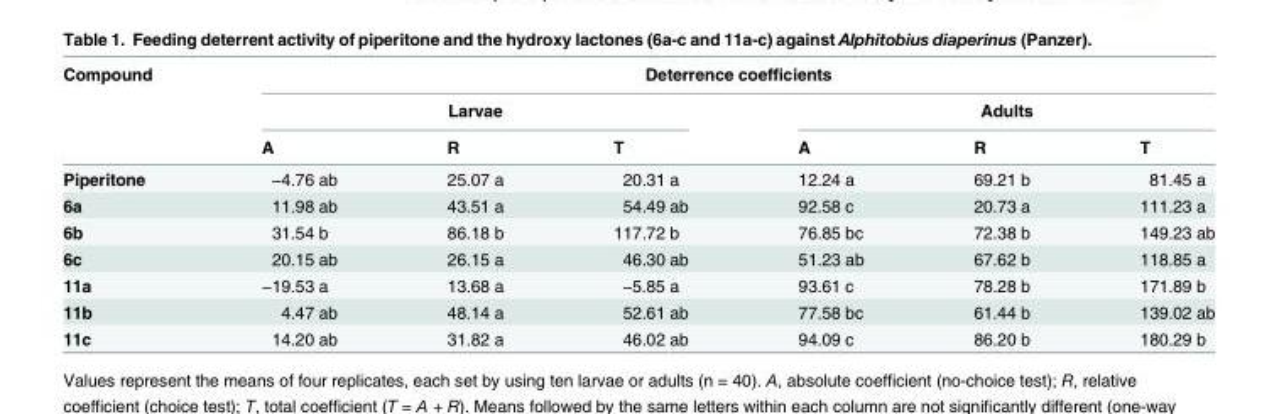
<table><thead><tr><td rowspan="3">Compound</td><td colspan="6">Deterrence coefficients</td></tr><tr><td colspan="3">Larvae</td><td colspan="3">Adults</td></tr><tr><td>A</td><td>R</td><td>T</td><td>A</td><td>R</td><td>T</td></tr></thead><tbody><tr><td>Piperitone</td><td>−4.76 ab</td><td>25.07 a</td><td>20.31 a</td><td>12.24 a</td><td>69.21 b</td><td>81.45 a</td></tr><tr><td>6a</td><td>11.98 ab</td><td>43.51 a</td><td>54.49 ab</td><td>92.58 c</td><td>20.73 a</td><td>111.23 a</td></tr><tr><td>6b</td><td>31.54 b</td><td>86.18 b</td><td>117.72 b</td><td>76.85 bc</td><td>72.38 b</td><td>149.23 ab</td></tr><tr><td>6c</td><td>20.15 ab</td><td>26.15 a</td><td>46.30 ab</td><td>51.23 ab</td><td>67.62 b</td><td>118.85 a</td></tr><tr><td>11a</td><td>−19.53 a</td><td>13.68 a</td><td>−5.85 a</td><td>93.61 c</td><td>78.28 b</td><td>171.89 b</td></tr><tr><td>11b</td><td>4.47 ab</td><td>48.14 a</td><td>52.61 ab</td><td>77.58 bc</td><td>61.44 b</td><td>139.02 ab</td></tr><tr><td>11c</td><td>14.20 ab</td><td>31.82 a</td><td>46.02 ab</td><td>94.09 c</td><td>86.20 b</td><td>180.29 b</td></tr></tbody></table>